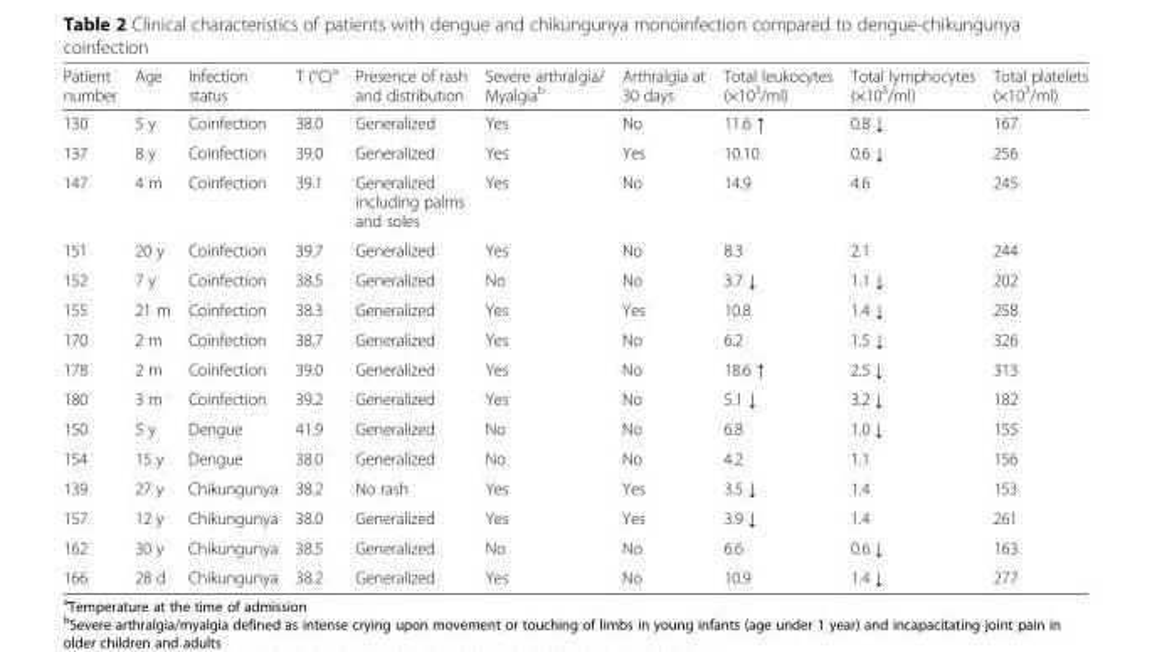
<table><thead><tr><td>Patient number</td><td>Age</td><td>Infection status</td><td>T (°C)<sup>a</sup></td><td>Presence of rash and distribution</td><td>Severe arthralgia/ Myalgia<sup>b</sup></td><td>Arthralgia at 30 days</td><td>Total leukocytes (×10<sup>3</sup>/ml)</td><td>Total lymphocytes (×10<sup>3</sup>/ml)</td><td>Total platelets (×10<sup>3</sup>/ml)</td></tr></thead><tbody><tr><td>130</td><td>5 y</td><td>Coinfection</td><td>38.0</td><td>Generalized</td><td>Yes</td><td>No</td><td>11.6 ↑</td><td>0.8 ↓</td><td>167</td></tr><tr><td>137</td><td>8 y</td><td>Coinfection</td><td>39.0</td><td>Generalized</td><td>Yes</td><td>Yes</td><td>10.10</td><td>0.6 ↓</td><td>256</td></tr><tr><td>147</td><td>4 m</td><td>Coinfection</td><td>39.1</td><td>Generalized including palms and soles</td><td>Yes</td><td>No</td><td>14.9</td><td>4.6</td><td>245</td></tr><tr><td>151</td><td>20 y</td><td>Coinfection</td><td>39.7</td><td>Generalized</td><td>Yes</td><td>No</td><td>8.3</td><td>2.1</td><td>244</td></tr><tr><td>152</td><td>7 y</td><td>Coinfection</td><td>38.5</td><td>Generalized</td><td>No</td><td>No</td><td>3.7 ↓</td><td>1.1 ↓</td><td>202</td></tr><tr><td>155</td><td>21 m</td><td>Coinfection</td><td>38.3</td><td>Generalized</td><td>Yes</td><td>Yes</td><td>10.8</td><td>1.4 ↓</td><td>258</td></tr><tr><td>170</td><td>2 m</td><td>Coinfection</td><td>38.7</td><td>Generalized</td><td>Yes</td><td>No</td><td>6.2</td><td>1.5 ↓</td><td>326</td></tr><tr><td>178</td><td>2 m</td><td>Coinfection</td><td>39.0</td><td>Generalized</td><td>Yes</td><td>No</td><td>18.6 ↑</td><td>2.5 ↓</td><td>313</td></tr><tr><td>180</td><td>3 m</td><td>Coinfection</td><td>39.2</td><td>Generalized</td><td>Yes</td><td>No</td><td>5.1 ↓</td><td>3.2 ↓</td><td>182</td></tr><tr><td>150</td><td>5 y</td><td>Dengue</td><td>41.9</td><td>Generalized</td><td>No</td><td>No</td><td>6.8</td><td>1.0 ↓</td><td>155</td></tr><tr><td>154</td><td>15 y</td><td>Dengue</td><td>38.0</td><td>Generalized</td><td>No</td><td>No</td><td>4.2</td><td>1.1</td><td>156</td></tr><tr><td>139</td><td>27 y</td><td>Chikungunya</td><td>38.2</td><td>No rash</td><td>Yes</td><td>Yes</td><td>3.5 ↓</td><td>1.4</td><td>153</td></tr><tr><td>157</td><td>12 y</td><td>Chikungunya</td><td>38.0</td><td>Generalized</td><td>Yes</td><td>Yes</td><td>3.9 ↓</td><td>1.4</td><td>261</td></tr><tr><td>162</td><td>30 y</td><td>Chikungunya</td><td>38.5</td><td>Generalized</td><td>No</td><td>No</td><td>6.6</td><td>0.6 ↓</td><td>163</td></tr><tr><td>166</td><td>28 d</td><td>Chikungunya</td><td>38.2</td><td>Generalized</td><td>Yes</td><td>No</td><td>10.9</td><td>1.4 ↓</td><td>277</td></tr></tbody></table>